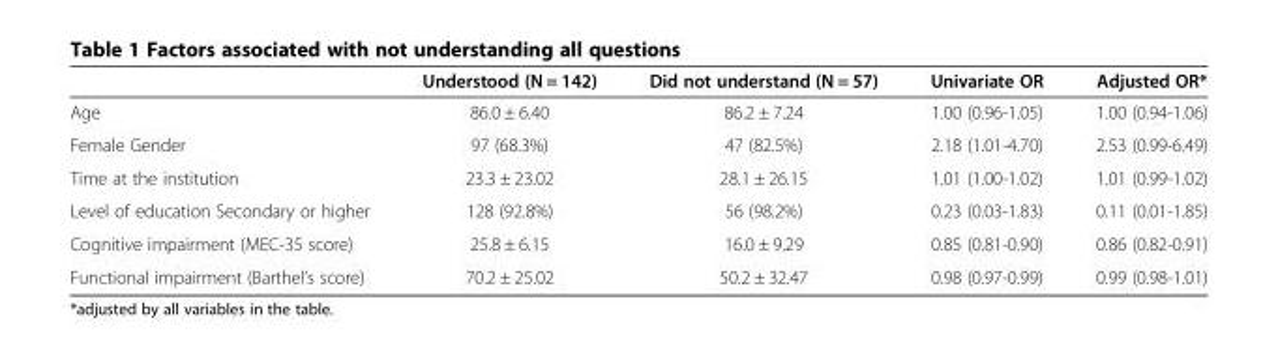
<table><thead><tr><td></td><td>Understood (N = 142)</td><td>Did not understand (N = 57)</td><td>Univariate OR</td><td>Adjusted OR*</td></tr></thead><tbody><tr><td>Age</td><td>86.0 ± 6.40</td><td>86.2 ± 7.24</td><td>1.00 (0.96-1.05)</td><td>1.00 (0.94-1.06)</td></tr><tr><td>Female Gender</td><td>97 (68.3%)</td><td>47 (82.5%)</td><td>2.18 (1.01-4.70)</td><td>2.53 (0.99-6.49)</td></tr><tr><td>Time at the institution</td><td>23.3 ± 23.02</td><td>28.1 ± 26.15</td><td>1.01 (1.00-1.02)</td><td>1.01 (0.99-1.02)</td></tr><tr><td>Level of education Secondary or higher</td><td>128 (92.8%)</td><td>56 (98.2%)</td><td>0.23 (0.03-1.83)</td><td>0.11 (0.01-1.85)</td></tr><tr><td>Cognitive impairment (MEC-35 score)</td><td>25.8 ± 6.15</td><td>16.0 ± 9.29</td><td>0.85 (0.81-0.90)</td><td>0.86 (0.82-0.91)</td></tr><tr><td>Functional impairment (Barthel’s score)</td><td>70.2 ± 25.02</td><td>50.2 ± 32.47</td><td>0.98 (0.97-0.99)</td><td>0.99 (0.98-1.01)</td></tr></tbody></table>